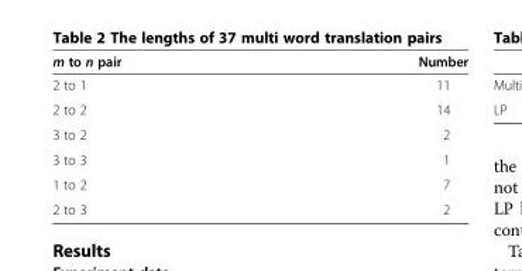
<table><thead><tr><td>m to n pair</td><td>Number</td></tr></thead><tbody><tr><td>2 to 1</td><td>11</td></tr><tr><td>2 to 2</td><td>14</td></tr><tr><td>3 to 2</td><td>2</td></tr><tr><td>3 to 3</td><td>1</td></tr><tr><td>1 to 2</td><td>7</td></tr><tr><td>2 to 3</td><td>2</td></tr></tbody></table>